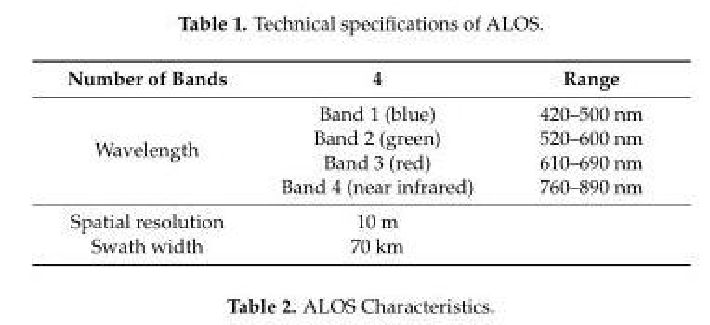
<table><thead><tr><td>Number of Bands</td><td>4</td><td>Range</td></tr></thead><tbody><tr><td rowspan="4">Wavelength</td><td>Band 1 (blue)</td><td>420–500 nm</td></tr><tr><td>Band 2 (green)</td><td>520–600 nm</td></tr><tr><td>Band 3 (red)</td><td>610–690 nm</td></tr><tr><td>Band 4 (near infrared)</td><td>760–890 nm</td></tr><tr><td>Spatial resolution</td><td>10 m</td><td></td></tr><tr><td>Swath width</td><td>70 km</td><td></td></tr></tbody></table>